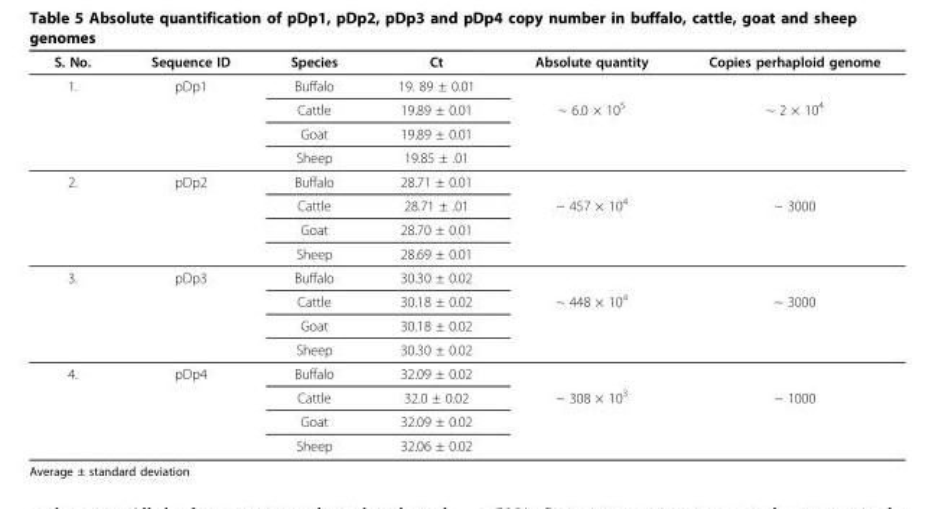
<table><thead><tr><td>S. No.</td><td>Sequence ID</td><td>Species</td><td>Ct</td><td>Absolute quantity</td><td>Copies perhaploid genome</td></tr></thead><tbody><tr><td rowspan="4">1.</td><td>pDp1</td><td>Buffalo</td><td>19. 89 ± 0.01</td><td></td><td></td></tr><tr><td></td><td>Cattle</td><td>19.89 ± 0.01</td><td>~ 6.0 × 10<sup>5</sup></td><td>~ 2 × 10<sup>4</sup></td></tr><tr><td></td><td>Goat</td><td>19.89 ± 0.01</td><td></td><td></td></tr><tr><td></td><td>Sheep</td><td>19.85 ± .01</td><td></td><td></td></tr><tr><td rowspan="4">2.</td><td>pDp2</td><td>Buffalo</td><td>28.71 ± 0.01</td><td></td><td></td></tr><tr><td></td><td>Cattle</td><td>28.71 ± .01</td><td>~ 457 × 10<sup>4</sup></td><td>~ 3000</td></tr><tr><td></td><td>Goat</td><td>28.70 ± 0.01</td><td></td><td></td></tr><tr><td></td><td>Sheep</td><td>28.69 ± 0.01</td><td></td><td></td></tr><tr><td rowspan="4">3.</td><td>pDp3</td><td>Buffalo</td><td>30.30 ± 0.02</td><td></td><td></td></tr><tr><td></td><td>Cattle</td><td>30.18 ± 0.02</td><td>~ 448 × 10<sup>4</sup></td><td>~ 3000</td></tr><tr><td></td><td>Goat</td><td>30.18 ± 0.02</td><td></td><td></td></tr><tr><td></td><td>Sheep</td><td>30.30 ± 0.02</td><td></td><td></td></tr><tr><td rowspan="4">4.</td><td>pDp4</td><td>Buffalo</td><td>32.09 ± 0.02</td><td></td><td></td></tr><tr><td></td><td>Cattle</td><td>32.0 ± 0.02</td><td>~ 308 × 10<sup>3</sup></td><td>~ 1000</td></tr><tr><td></td><td>Goat</td><td>32.09 ± 0.02</td><td></td><td></td></tr><tr><td></td><td>Sheep</td><td>32.06 ± 0.02</td><td></td><td></td></tr></tbody></table>